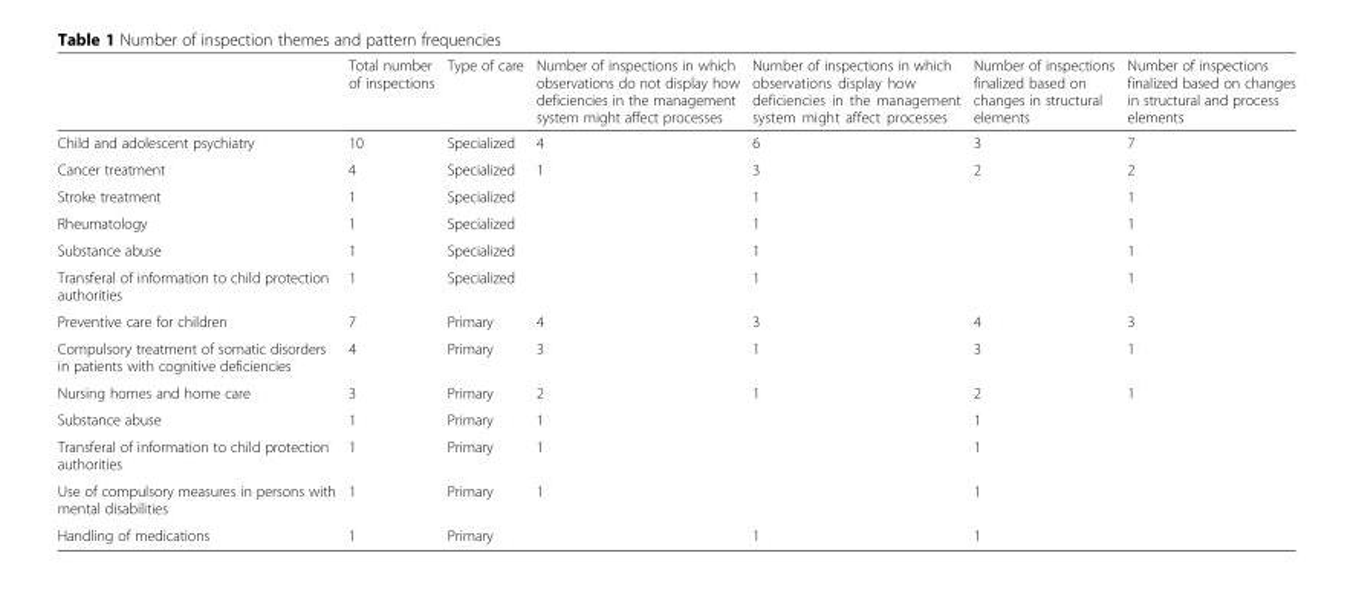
<table><thead><tr><td></td><td>Total number of inspections</td><td>Type of care</td><td>Number of inspections in which observations do not display how deficiencies in the management system might affect processes</td><td>Number of inspections in which observations display how deficiencies in the management system might affect processes</td><td>Number of inspections finalized based on changes in structural elements</td><td>Number of inspections finalized based on changes in structural and process elements</td></tr></thead><tbody><tr><td>Child and adolescent psychiatry</td><td>10</td><td>Specialized</td><td>4</td><td>6</td><td>3</td><td>7</td></tr><tr><td>Cancer treatment</td><td>4</td><td>Specialized</td><td>1</td><td>3</td><td>2</td><td>2</td></tr><tr><td>Stroke treatment</td><td>1</td><td>Specialized</td><td></td><td>1</td><td></td><td>1</td></tr><tr><td>Rheumatology</td><td>1</td><td>Specialized</td><td></td><td>1</td><td></td><td>1</td></tr><tr><td>Substance abuse</td><td>1</td><td>Specialized</td><td></td><td>1</td><td></td><td>1</td></tr><tr><td>Transferal of information to child protection authorities</td><td>1</td><td>Specialized</td><td></td><td>1</td><td></td><td>1</td></tr><tr><td>Preventive care for children</td><td>7</td><td>Primary</td><td>4</td><td>3</td><td>4</td><td>3</td></tr><tr><td>Compulsory treatment of somatic disorders in patients with cognitive deficiencies</td><td>4</td><td>Primary</td><td>3</td><td>1</td><td>3</td><td>1</td></tr><tr><td>Nursing homes and home care</td><td>3</td><td>Primary</td><td>2</td><td>1</td><td>2</td><td>1</td></tr><tr><td>Substance abuse</td><td>1</td><td>Primary</td><td>1</td><td></td><td>1</td><td></td></tr><tr><td>Transferal of information to child protection authorities</td><td>1</td><td>Primary</td><td>1</td><td></td><td>1</td><td></td></tr><tr><td>Use of compulsory measures in persons with mental disabilities</td><td>1</td><td>Primary</td><td>1</td><td></td><td>1</td><td></td></tr><tr><td>Handling of medications</td><td>1</td><td>Primary</td><td></td><td>1</td><td>1</td><td></td></tr></tbody></table>